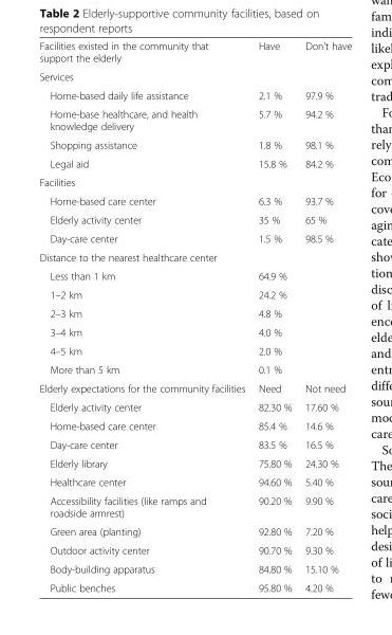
<table><tbody><tr><td>Facilities existed in the community that support the elderly</td><td>Have</td><td>Don’t have</td></tr><tr><td colspan="3">Services</td></tr><tr><td>Home-based daily life assistance</td><td>2.1 %</td><td>97.9 %</td></tr><tr><td>Home-base healthcare, and health knowledge delivery</td><td>5.7 %</td><td>94.2 %</td></tr><tr><td>Shopping assistance</td><td>1.8 %</td><td>98.1 %</td></tr><tr><td>Legal aid</td><td>15.8 %</td><td>84.2 %</td></tr><tr><td colspan="3">Facilities</td></tr><tr><td>Home-based care center</td><td>6.3 %</td><td>93.7 %</td></tr><tr><td>Elderly activity center</td><td>35 %</td><td>65 %</td></tr><tr><td>Day-care center</td><td>1.5 %</td><td>98.5 %</td></tr><tr><td colspan="3">Distance to the nearest healthcare center</td></tr><tr><td>Less than 1 km</td><td>64.9 %</td><td></td></tr><tr><td>1–2 km</td><td>24.2 %</td><td></td></tr><tr><td>2–3 km</td><td>4.8 %</td><td></td></tr><tr><td>3–4 km</td><td>4.0 %</td><td></td></tr><tr><td>4–5 km</td><td>2.0 %</td><td></td></tr><tr><td>More than 5 km</td><td>0.1 %</td><td></td></tr><tr><td>Elderly expectations for the community facilities</td><td>Need</td><td>Not need</td></tr><tr><td>Elderly activity center</td><td>82.30 %</td><td>17.60 %</td></tr><tr><td>Home-based care center</td><td>85.4 %</td><td>14.6 %</td></tr><tr><td>Day-care center</td><td>83.5 %</td><td>16.5 %</td></tr><tr><td>Elderly library</td><td>75.80 %</td><td>24.30 %</td></tr><tr><td>Healthcare center</td><td>94.60 %</td><td>5.40 %</td></tr><tr><td>Accessibility facilities (like ramps and roadside armrest)</td><td>90.20 %</td><td>9.90 %</td></tr><tr><td>Green area (planting)</td><td>92.80 %</td><td>7.20 %</td></tr><tr><td>Outdoor activity center</td><td>90.70 %</td><td>9.30 %</td></tr><tr><td>Body-building apparatus</td><td>84.80 %</td><td>15.10 %</td></tr><tr><td>Public benches</td><td>95.80 %</td><td>4.20 %</td></tr></tbody></table>